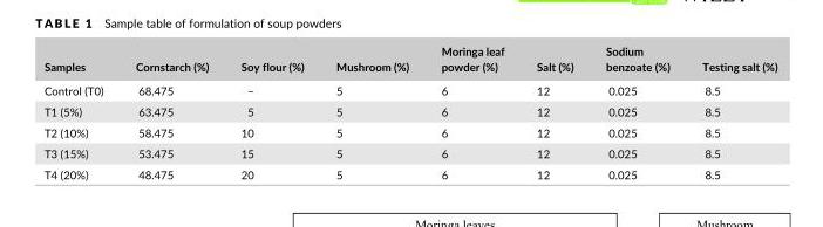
<table><thead><tr><td>Samples</td><td>Cornstarch (%)</td><td>Soy flour (%)</td><td>Mushroom (%)</td><td>Moringa leaf powder (%)</td><td>Salt (%)</td><td>Sodium benzoate (%)</td><td>Testing salt (%)</td></tr></thead><tbody><tr><td>Control (T0)</td><td>68.475</td><td>–</td><td>5</td><td>6</td><td>12</td><td>0.025</td><td>8.5</td></tr><tr><td>T1 (5%)</td><td>63.475</td><td>5</td><td>5</td><td>6</td><td>12</td><td>0.025</td><td>8.5</td></tr><tr><td>T2 (10%)</td><td>58.475</td><td>10</td><td>5</td><td>6</td><td>12</td><td>0.025</td><td>8.5</td></tr><tr><td>T3 (15%)</td><td>53.475</td><td>15</td><td>5</td><td>6</td><td>12</td><td>0.025</td><td>8.5</td></tr><tr><td>T4 (20%)</td><td>48.475</td><td>20</td><td>5</td><td>6</td><td>12</td><td>0.025</td><td>8.5</td></tr></tbody></table>